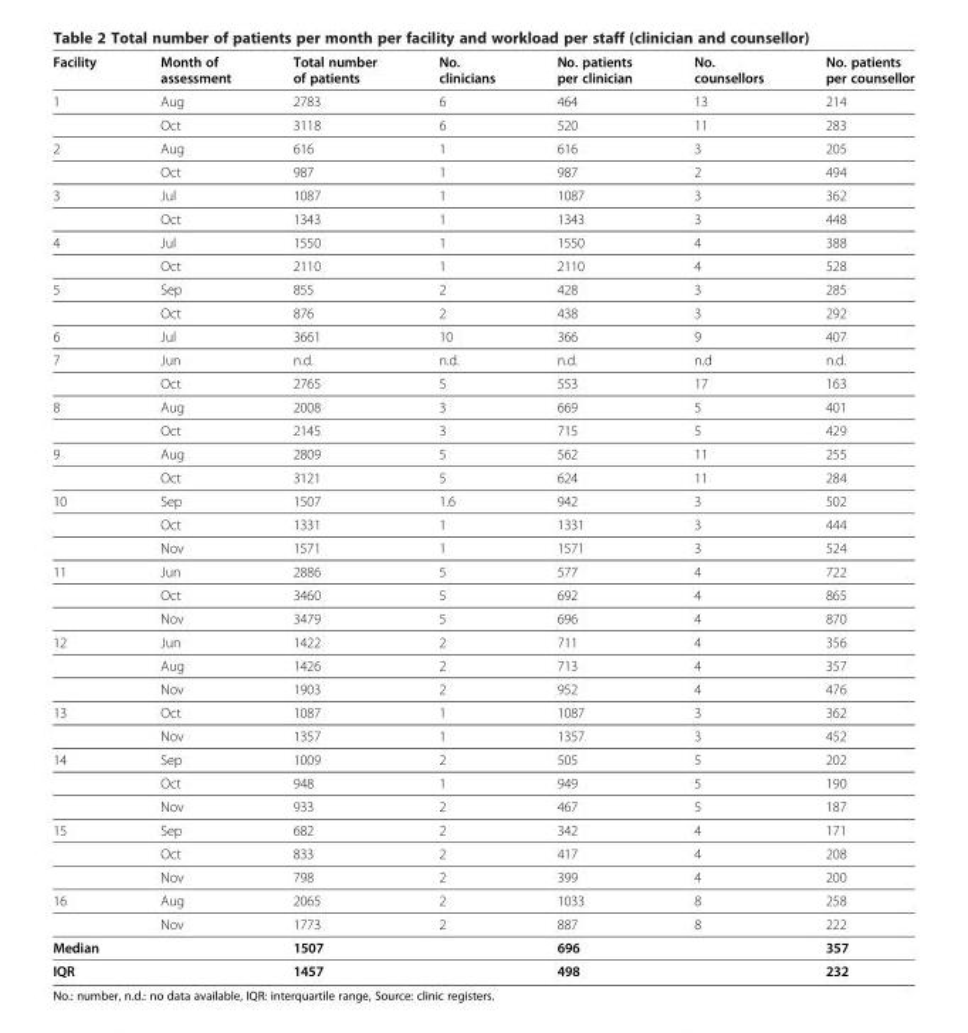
<table><thead><tr><td>Facility</td><td>Month of assessment</td><td>Total number of patients</td><td>No. clinicians</td><td>No. patients per clinician</td><td>No. counsellors</td><td>No. patients per counsellor</td></tr></thead><tbody><tr><td rowspan="2">1</td><td>Aug</td><td>2783</td><td>6</td><td>464</td><td>13</td><td>214</td></tr><tr><td>Oct</td><td>3118</td><td>6</td><td>520</td><td>11</td><td>283</td></tr><tr><td rowspan="2">2</td><td>Aug</td><td>616</td><td>1</td><td>616</td><td>3</td><td>205</td></tr><tr><td>Oct</td><td>987</td><td>1</td><td>987</td><td>2</td><td>494</td></tr><tr><td rowspan="2">3</td><td>Jul</td><td>1087</td><td>1</td><td>1087</td><td>3</td><td>362</td></tr><tr><td>Oct</td><td>1343</td><td>1</td><td>1343</td><td>3</td><td>448</td></tr><tr><td rowspan="2">4</td><td>Jul</td><td>1550</td><td>1</td><td>1550</td><td>4</td><td>388</td></tr><tr><td>Oct</td><td>2110</td><td>1</td><td>2110</td><td>4</td><td>528</td></tr><tr><td rowspan="2">5</td><td>Sep</td><td>855</td><td>2</td><td>428</td><td>3</td><td>285</td></tr><tr><td>Oct</td><td>876</td><td>2</td><td>438</td><td>3</td><td>292</td></tr><tr><td>6</td><td>Jul</td><td>3661</td><td>10</td><td>366</td><td>9</td><td>407</td></tr><tr><td rowspan="2">7</td><td>Jun</td><td>n.d.</td><td>n.d.</td><td>n.d.</td><td>n.d</td><td>n.d.</td></tr><tr><td>Oct</td><td>2765</td><td>5</td><td>553</td><td>17</td><td>163</td></tr><tr><td rowspan="2">8</td><td>Aug</td><td>2008</td><td>3</td><td>669</td><td>5</td><td>401</td></tr><tr><td>Oct</td><td>2145</td><td>3</td><td>715</td><td>5</td><td>429</td></tr><tr><td rowspan="2">9</td><td>Aug</td><td>2809</td><td>5</td><td>562</td><td>11</td><td>255</td></tr><tr><td>Oct</td><td>3121</td><td>5</td><td>624</td><td>11</td><td>284</td></tr><tr><td rowspan="3">10</td><td>Sep</td><td>1507</td><td>1.6</td><td>942</td><td>3</td><td>502</td></tr><tr><td>Oct</td><td>1331</td><td>1</td><td>1331</td><td>3</td><td>444</td></tr><tr><td>Nov</td><td>1571</td><td>1</td><td>1571</td><td>3</td><td>524</td></tr><tr><td rowspan="3">11</td><td>Jun</td><td>2886</td><td>5</td><td>577</td><td>4</td><td>722</td></tr><tr><td>Oct</td><td>3460</td><td>5</td><td>692</td><td>4</td><td>865</td></tr><tr><td>Nov</td><td>3479</td><td>5</td><td>696</td><td>4</td><td>870</td></tr><tr><td rowspan="3">12</td><td>Jun</td><td>1422</td><td>2</td><td>711</td><td>4</td><td>356</td></tr><tr><td>Aug</td><td>1426</td><td>2</td><td>713</td><td>4</td><td>357</td></tr><tr><td>Nov</td><td>1903</td><td>2</td><td>952</td><td>4</td><td>476</td></tr><tr><td rowspan="2">13</td><td>Oct</td><td>1087</td><td>1</td><td>1087</td><td>3</td><td>362</td></tr><tr><td>Nov</td><td>1357</td><td>1</td><td>1357</td><td>3</td><td>452</td></tr><tr><td rowspan="3">14</td><td>Sep</td><td>1009</td><td>2</td><td>505</td><td>5</td><td>202</td></tr><tr><td>Oct</td><td>948</td><td>1</td><td>949</td><td>5</td><td>190</td></tr><tr><td>Nov</td><td>933</td><td>2</td><td>467</td><td>5</td><td>187</td></tr><tr><td rowspan="3">15</td><td>Sep</td><td>682</td><td>2</td><td>342</td><td>4</td><td>171</td></tr><tr><td>Oct</td><td>833</td><td>2</td><td>417</td><td>4</td><td>208</td></tr><tr><td>Nov</td><td>798</td><td>2</td><td>399</td><td>4</td><td>200</td></tr><tr><td rowspan="2">16</td><td>Aug</td><td>2065</td><td>2</td><td>1033</td><td>8</td><td>258</td></tr><tr><td>Nov</td><td>1773</td><td>2</td><td>887</td><td>8</td><td>222</td></tr><tr><td>Median</td><td></td><td>1507</td><td></td><td>696</td><td></td><td>357</td></tr><tr><td>IQR</td><td></td><td>1457</td><td></td><td>498</td><td></td><td>232</td></tr></tbody></table>